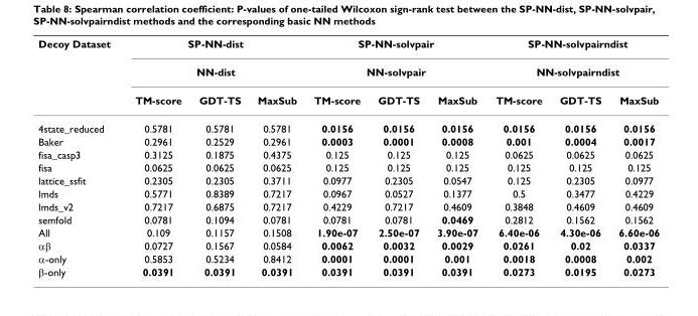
<table><thead><tr><td rowspan="3">Decoy Dataset</td><td rowspan="2" colspan="3">SP-NN-dist NN-dist</td><td rowspan="2" colspan="3">SP-NN-solvpair NN-solvpair</td><td rowspan="2" colspan="3">SP-NN-solvpairndist NN-solvpairndist</td></tr><tr></tr><tr><td>TM-score</td><td>GDT-TS</td><td>MaxSub</td><td>TM-score</td><td>GDT-TS</td><td>MaxSub</td><td>TM-score</td><td>GDT-TS</td><td>MaxSub</td></tr></thead><tbody><tr><td>4state_reduced</td><td>0.5781</td><td>0.5781</td><td>0.5781</td><td>0.0156</td><td>0.0156</td><td>0.0156</td><td>0.0156</td><td>0.0156</td><td>0.0156</td></tr><tr><td>Baker</td><td>0.2961</td><td>0.2529</td><td>0.2961</td><td>0.0003</td><td>0.0001</td><td>0.0008</td><td>0.001</td><td>0.0004</td><td>0.0017</td></tr><tr><td>fisa_casp3</td><td>0.3125</td><td>0.1875</td><td>0.4375</td><td>0.125</td><td>0.125</td><td>0.125</td><td>0.0625</td><td>0.0625</td><td>0.0625</td></tr><tr><td>fisa</td><td>0.0625</td><td>0.0625</td><td>0.0625</td><td>0.125</td><td>0.125</td><td>0.125</td><td>0.125</td><td>0.125</td><td>0.125</td></tr><tr><td>lattice_ssfit</td><td>0.2305</td><td>0.2305</td><td>0.3711</td><td>0.0977</td><td>0.2305</td><td>0.0547</td><td>0.125</td><td>0.2305</td><td>0.0977</td></tr><tr><td>lmds</td><td>0.5771</td><td>0.8389</td><td>0.7217</td><td>0.0967</td><td>0.0527</td><td>0.1377</td><td>0.5</td><td>0.3477</td><td>0.4229</td></tr><tr><td>lmds_v2</td><td>0.7217</td><td>0.6875</td><td>0.7217</td><td>0.4229</td><td>0.7217</td><td>0.4609</td><td>0.3848</td><td>0.4609</td><td>0.4609</td></tr><tr><td>semfold</td><td>0.0781</td><td>0.1094</td><td>0.0781</td><td>0.0781</td><td>0.0781</td><td>0.0469</td><td>0.2812</td><td>0.1562</td><td>0.1562</td></tr><tr><td>All</td><td>0.109</td><td>0.1157</td><td>0.1508</td><td>1.90e-07</td><td>2.50e-07</td><td>3.90e-07</td><td>6.40e-06</td><td>4.30e-06</td><td>6.60e-06</td></tr><tr><td>αβ</td><td>0.0727</td><td>0.1567</td><td>0.0584</td><td>0.0062</td><td>0.0032</td><td>0.0029</td><td>0.0261</td><td>0.02</td><td>0.0337</td></tr><tr><td>α-only</td><td>0.5853</td><td>0.5234</td><td>0.8412</td><td>0.0001</td><td>0.0001</td><td>0.001</td><td>0.0018</td><td>0.0008</td><td>0.002</td></tr><tr><td>β-only</td><td>0.0391</td><td>0.0391</td><td>0.0391</td><td>0.0391</td><td>0.0391</td><td>0.0391</td><td>0.0273</td><td>0.0195</td><td>0.0273</td></tr></tbody></table>